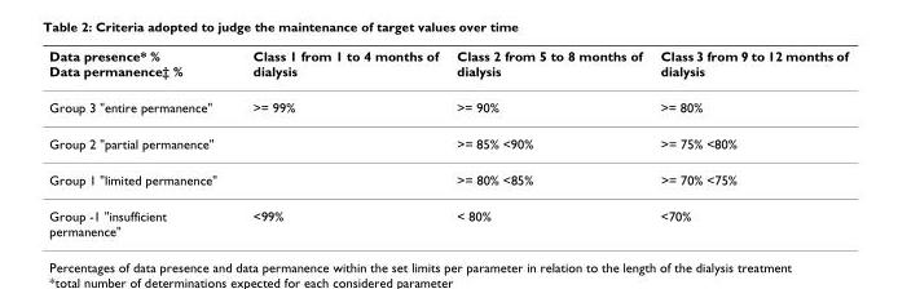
<table><thead><tr><td>Data presence* % Data permanence‡ %</td><td>Class 1 from 1 to 4 months of dialysis</td><td>Class 2 from 5 to 8 months of dialysis</td><td>Class 3 from 9 to 12 months of dialysis</td></tr></thead><tbody><tr><td>Group 3 &quot;entire permanence&quot;</td><td>&gt;= 99%</td><td>&gt;= 90%</td><td>&gt;= 80%</td></tr><tr><td>Group 2 &quot;partial permanence&quot;</td><td></td><td>&gt;= 85% &lt;90%</td><td>&gt;= 75% &lt;80%</td></tr><tr><td>Group 1 &quot;limited permanence&quot;</td><td></td><td>&gt;= 80% &lt;85%</td><td>&gt;= 70% &lt;75%</td></tr><tr><td>Group -1 &quot;insufficient permanence&quot;</td><td>&lt;99%</td><td>&lt; 80%</td><td>&lt;70%</td></tr></tbody></table>